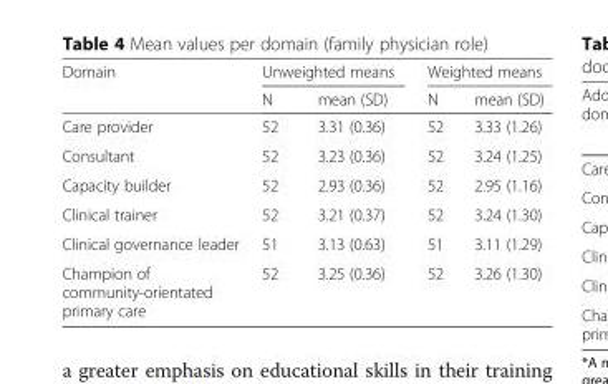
<table><thead><tr><td rowspan="2">Domain</td><td colspan="2">Unweighted means</td><td colspan="2">Weighted means</td></tr><tr><td>N</td><td>mean (SD)</td><td>N</td><td>mean (SD)</td></tr></thead><tbody><tr><td>Care provider</td><td>52</td><td>3.31 (0.36)</td><td>52</td><td>3.33 (1.26)</td></tr><tr><td>Consultant</td><td>52</td><td>3.23 (0.36)</td><td>52</td><td>3.24 (1.25)</td></tr><tr><td>Capacity builder</td><td>52</td><td>2.93 (0.36)</td><td>52</td><td>2.95 (1.16)</td></tr><tr><td>Clinical trainer</td><td>52</td><td>3.21 (0.37)</td><td>52</td><td>3.24 (1.30)</td></tr><tr><td>Clinical governance leader</td><td>51</td><td>3.13 (0.63)</td><td>51</td><td>3.11 (1.29)</td></tr><tr><td>Champion of community-orientated primary care</td><td>52</td><td>3.25 (0.36)</td><td>52</td><td>3.26 (1.30)</td></tr></tbody></table>